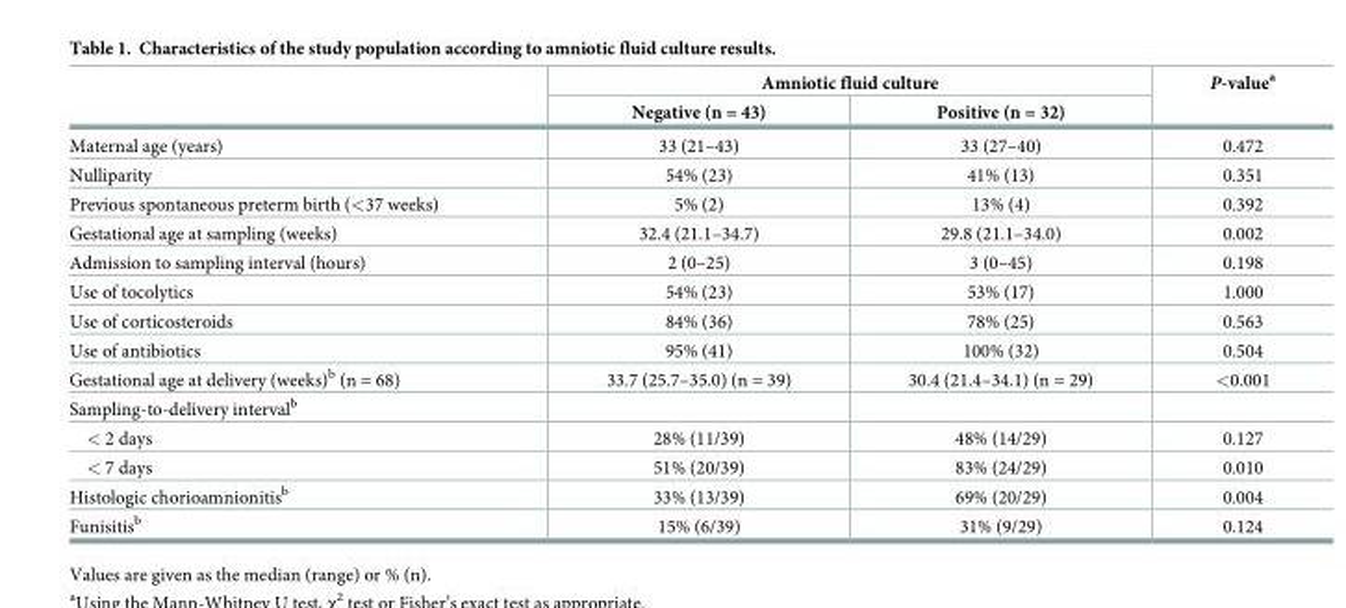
<table><thead><tr><td rowspan="2"></td><td colspan="2">Amniotic fluid culture</td><td rowspan="2">P-value<sup>a</sup></td></tr><tr><td>Negative (n = 43)</td><td>Positive (n = 32)</td></tr></thead><tbody><tr><td>Maternal age (years)</td><td>33 (21–43)</td><td>33 (27–40)</td><td>0.472</td></tr><tr><td>Nulliparity</td><td>54% (23)</td><td>41% (13)</td><td>0.351</td></tr><tr><td>Previous spontaneous preterm birth (&lt;37 weeks)</td><td>5% (2)</td><td>13% (4)</td><td>0.392</td></tr><tr><td>Gestational age at sampling (weeks)</td><td>32.4 (21.1–34.7)</td><td>29.8 (21.1–34.0)</td><td>0.002</td></tr><tr><td>Admission to sampling interval (hours)</td><td>2 (0–25)</td><td>3 (0–45)</td><td>0.198</td></tr><tr><td>Use of tocolytics</td><td>54% (23)</td><td>53% (17)</td><td>1.000</td></tr><tr><td>Use of corticosteroids</td><td>84% (36)</td><td>78% (25)</td><td>0.563</td></tr><tr><td>Use of antibiotics</td><td>95% (41)</td><td>100% (32)</td><td>0.504</td></tr><tr><td>Gestational age at delivery (weeks)<sup>b</sup> (n = 68)</td><td>33.7 (25.7–35.0) (n = 39)</td><td>30.4 (21.4–34.1) (n = 29)</td><td>&lt;0.001</td></tr><tr><td colspan="4">Sampling-to-delivery interval<sup>b</sup></td></tr><tr><td>&lt; 2 days</td><td>28% (11/39)</td><td>48% (14/29)</td><td>0.127</td></tr><tr><td>&lt; 7 days</td><td>51% (20/39)</td><td>83% (24/29)</td><td>0.010</td></tr><tr><td>Histologic chorioamnionitis<sup>b</sup></td><td>33% (13/39)</td><td>69% (20/29)</td><td>0.004</td></tr><tr><td>Funisitis<sup>b</sup></td><td>15% (6/39)</td><td>31% (9/29)</td><td>0.124</td></tr></tbody></table>